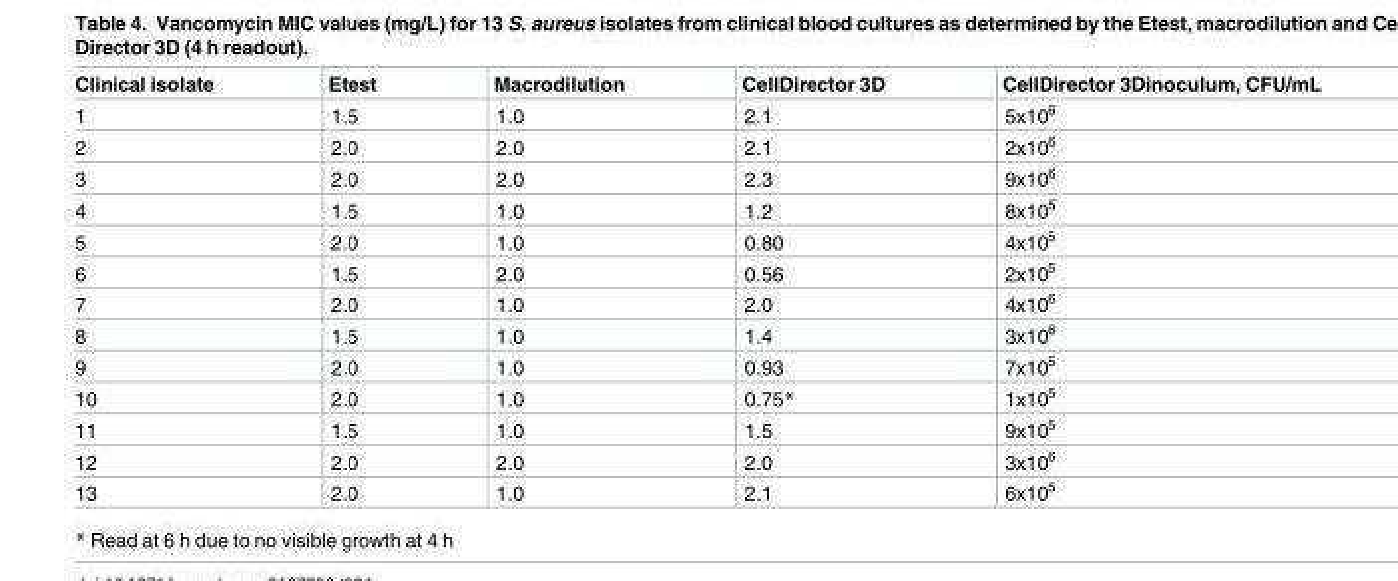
<table><thead><tr><td>Clinical isolate</td><td>Etest</td><td>Macrodilution</td><td>CellDirector 3D</td><td>CellDirector 3Dinoculum, CFU/mL</td></tr></thead><tbody><tr><td>1</td><td>1.5</td><td>1.0</td><td>2.1</td><td>5x10<sup>6</sup></td></tr><tr><td>2</td><td>2.0</td><td>2.0</td><td>2.1</td><td>2x10<sup>6</sup></td></tr><tr><td>3</td><td>2.0</td><td>2.0</td><td>2.3</td><td>9x10<sup>6</sup></td></tr><tr><td>4</td><td>1.5</td><td>1.0</td><td>1.2</td><td>8x10<sup>5</sup></td></tr><tr><td>5</td><td>2.0</td><td>1.0</td><td>0.80</td><td>4x10<sup>5</sup></td></tr><tr><td>6</td><td>1.5</td><td>2.0</td><td>0.56</td><td>2x10<sup>5</sup></td></tr><tr><td>7</td><td>2.0</td><td>1.0</td><td>2.0</td><td>4x10<sup>6</sup></td></tr><tr><td>8</td><td>1.5</td><td>1.0</td><td>1.4</td><td>3x10<sup>6</sup></td></tr><tr><td>9</td><td>2.0</td><td>1.0</td><td>0.93</td><td>7x10<sup>5</sup></td></tr><tr><td>10</td><td>2.0</td><td>1.0</td><td>0.75*</td><td>1x10<sup>5</sup></td></tr><tr><td>11</td><td>1.5</td><td>1.0</td><td>1.5</td><td>9x10<sup>5</sup></td></tr><tr><td>12</td><td>2.0</td><td>2.0</td><td>2.0</td><td>3x10<sup>6</sup></td></tr><tr><td>13</td><td>2.0</td><td>1.0</td><td>2.1</td><td>6x10<sup>5</sup></td></tr></tbody></table>